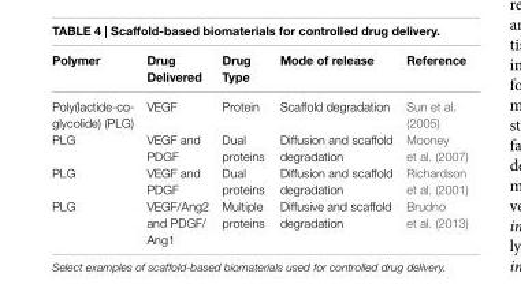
<table><thead><tr><td>Polymer</td><td>Drug Delivered</td><td>Drug Type</td><td>Mode of release</td><td>Reference</td></tr></thead><tbody><tr><td>Poly(lactide-co- glycolide) (PLG)</td><td>VEGF</td><td>Protein</td><td>Scaffold degradation</td><td>Sun et al. (2005)</td></tr><tr><td>PLG</td><td>VEGF and PDGF</td><td>Dual proteins</td><td>Diffusion and scaffold degradation</td><td>Mooney et al. (2007)</td></tr><tr><td>PLG</td><td>VEGF and PDGF</td><td>Dual proteins</td><td>Diffusion and scaffold degradation</td><td>Richardson et al. (2001)</td></tr><tr><td>PLG</td><td>VEGF/Ang2 and PDGF/ Ang1</td><td>Multiple proteins</td><td>Diffusive and scaffold degradation</td><td>Brudno et al. (2013)</td></tr></tbody></table>